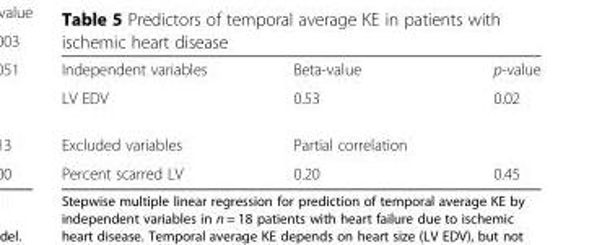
<table><tbody><tr><td>Independent variables</td><td>Beta-value</td><td>p-value</td></tr><tr><td>LV EDV</td><td>0.53</td><td>0.02</td></tr><tr><td>Excluded variables</td><td>Partial correlation</td><td></td></tr><tr><td>Percent scarred LV</td><td>0.20</td><td>0.45</td></tr></tbody></table>